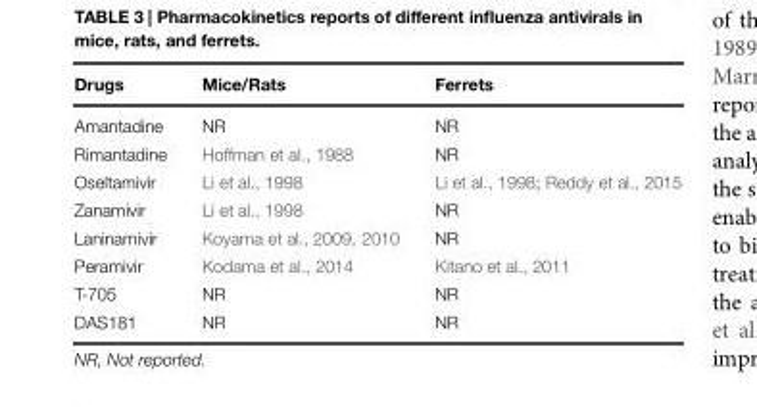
<table><thead><tr><td>Drugs</td><td>Mice/Rats</td><td>Ferrets</td></tr></thead><tbody><tr><td>Amantadine</td><td>NR</td><td>NR</td></tr><tr><td>Rimantadine</td><td>Hoffman et al., 1988</td><td>NR</td></tr><tr><td>Oseltamivir</td><td>Li et al., 1998</td><td>Li et al., 1998; Reddy et al., 2015</td></tr><tr><td>Zanamivir</td><td>Li et al., 1998</td><td>NR</td></tr><tr><td>Laninamivir</td><td>Koyama et al., 2009, 2010</td><td>NR</td></tr><tr><td>Peramivir</td><td>Kodama et al., 2014</td><td>Kitano et al., 2011</td></tr><tr><td>T-705</td><td>NR</td><td>NR</td></tr><tr><td>DAS181</td><td>NR</td><td>NR</td></tr></tbody></table>